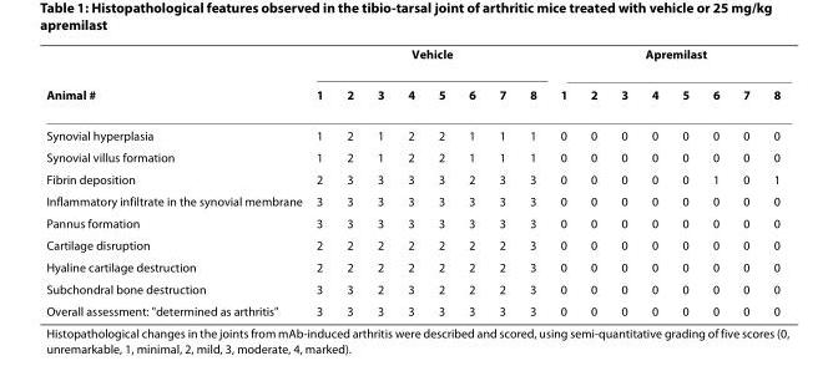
<table><thead><tr><td rowspan="2">Animal #</td><td colspan="8">Vehicle</td><td colspan="8">Apremilast</td></tr><tr><td>1</td><td>2</td><td>3</td><td>4</td><td>5</td><td>6</td><td>7</td><td>8</td><td>1</td><td>2</td><td>3</td><td>4</td><td>5</td><td>6</td><td>7</td><td>8</td></tr></thead><tbody><tr><td>Synovial hyperplasia</td><td>1</td><td>2</td><td>1</td><td>2</td><td>2</td><td>1</td><td>1</td><td>1</td><td>0</td><td>0</td><td>0</td><td>0</td><td>0</td><td>0</td><td>0</td><td>0</td></tr><tr><td>Synovial villus formation</td><td>1</td><td>2</td><td>1</td><td>2</td><td>2</td><td>1</td><td>1</td><td>1</td><td>0</td><td>0</td><td>0</td><td>0</td><td>0</td><td>0</td><td>0</td><td>0</td></tr><tr><td>Fibrin deposition</td><td>2</td><td>3</td><td>3</td><td>3</td><td>3</td><td>2</td><td>3</td><td>3</td><td>0</td><td>0</td><td>0</td><td>0</td><td>0</td><td>1</td><td>0</td><td>1</td></tr><tr><td>Inflammatory infiltrate in the synovial membrane</td><td>3</td><td>3</td><td>3</td><td>3</td><td>3</td><td>3</td><td>3</td><td>3</td><td>0</td><td>0</td><td>0</td><td>0</td><td>0</td><td>0</td><td>0</td><td>0</td></tr><tr><td>Pannus formation</td><td>3</td><td>3</td><td>3</td><td>3</td><td>3</td><td>3</td><td>3</td><td>3</td><td>0</td><td>0</td><td>0</td><td>0</td><td>0</td><td>0</td><td>0</td><td>0</td></tr><tr><td>Cartilage disruption</td><td>2</td><td>2</td><td>2</td><td>2</td><td>2</td><td>2</td><td>2</td><td>3</td><td>0</td><td>0</td><td>0</td><td>0</td><td>0</td><td>0</td><td>0</td><td>0</td></tr><tr><td>Hyaline cartilage destruction</td><td>2</td><td>2</td><td>2</td><td>2</td><td>2</td><td>2</td><td>2</td><td>3</td><td>0</td><td>0</td><td>0</td><td>0</td><td>0</td><td>0</td><td>0</td><td>0</td></tr><tr><td>Subchondral bone destruction</td><td>3</td><td>3</td><td>2</td><td>3</td><td>2</td><td>2</td><td>2</td><td>3</td><td>0</td><td>0</td><td>0</td><td>0</td><td>0</td><td>0</td><td>0</td><td>0</td></tr><tr><td>Overall assessment: &quot;determined as arthritis&quot;</td><td>3</td><td>3</td><td>3</td><td>3</td><td>3</td><td>3</td><td>3</td><td>3</td><td>0</td><td>0</td><td>0</td><td>0</td><td>0</td><td>0</td><td>0</td><td>0</td></tr></tbody></table>